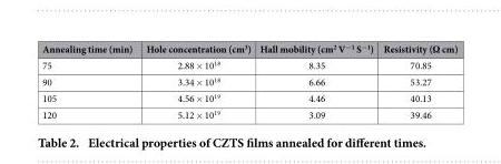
<table><thead><tr><td>Annealing time (min)</td><td>Hole concentration (cm<sup>3</sup>)</td><td>Hall mobility (cm<sup>2</sup> V<sup>−1</sup> S<sup>−1</sup>)</td><td>Resistivity (Ω cm)</td></tr></thead><tbody><tr><td>75</td><td>2.88 × 10<sup>18</sup></td><td>8.35</td><td>70.85</td></tr><tr><td>90</td><td>3.34 × 10<sup>18</sup></td><td>6.66</td><td>53.27</td></tr><tr><td>105</td><td>4.56 × 10<sup>19</sup></td><td>4.46</td><td>40.13</td></tr><tr><td>120</td><td>5.12 × 10<sup>19</sup></td><td>3.09</td><td>39.46</td></tr></tbody></table>